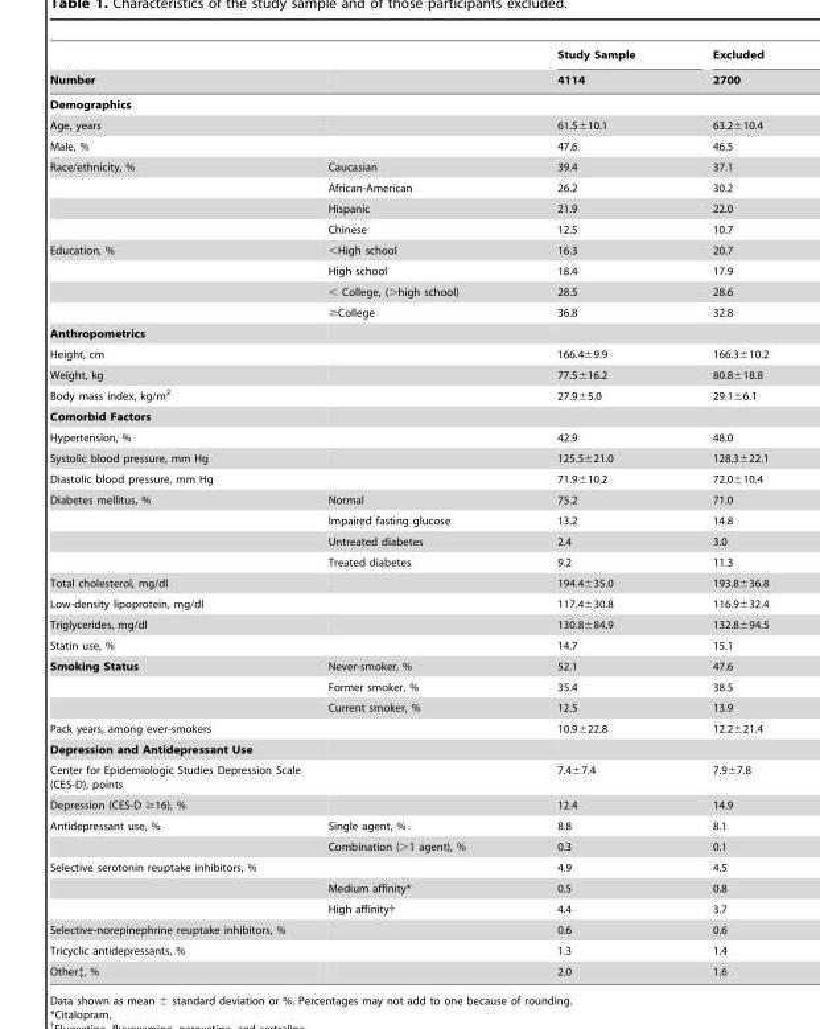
<table><thead><tr><td rowspan="2">Number</td><td rowspan="2"></td><td rowspan="2">Study Sample 4114</td><td rowspan="2">Excluded 2700</td></tr><tr></tr></thead><tbody><tr><td colspan="4">Demographics</td></tr><tr><td>Age, years</td><td></td><td>61.5±10.1</td><td>63.2±10.4</td></tr><tr><td>Male, %</td><td></td><td>47.6</td><td>46.5</td></tr><tr><td rowspan="4">Race/ethnicity, %</td><td>Caucasian</td><td>39.4</td><td>37.1</td></tr><tr><td>African-American</td><td>26.2</td><td>30.2</td></tr><tr><td>Hispanic</td><td>21.9</td><td>22.0</td></tr><tr><td>Chinese</td><td>12.5</td><td>10.7</td></tr><tr><td rowspan="4">Education, %</td><td>&lt;High school</td><td>16.3</td><td>20.7</td></tr><tr><td>High school</td><td>18.4</td><td>17.9</td></tr><tr><td>&lt; College, (&gt;high school)</td><td>28.5</td><td>28.6</td></tr><tr><td>≥College</td><td>36.8</td><td>32.8</td></tr><tr><td colspan="4">Anthropometrics</td></tr><tr><td>Height, cm</td><td></td><td>166.4±9.9</td><td>166.3±10.2</td></tr><tr><td>Weight, kg</td><td></td><td>77.5±16.2</td><td>80.8±18.8</td></tr><tr><td>Body mass index, kg/m<sup>2</sup></td><td></td><td>27.9±5.0</td><td>29.1±6.1</td></tr><tr><td colspan="4">Comorbid Factors</td></tr><tr><td>Hypertension, %</td><td></td><td>42.9</td><td>48.0</td></tr><tr><td>Systolic blood pressure, mm Hg</td><td></td><td>125.5±21.0</td><td>128.3±22.1</td></tr><tr><td>Diastolic blood pressure, mm Hg</td><td></td><td>71.9±10.2</td><td>72.0±10.4</td></tr><tr><td rowspan="4">Diabetes mellitus, %</td><td>Normal</td><td>75.2</td><td>71.0</td></tr><tr><td>Impaired fasting glucose</td><td>13.2</td><td>14.8</td></tr><tr><td>Untreated diabetes</td><td>2.4</td><td>3.0</td></tr><tr><td>Treated diabetes</td><td>9.2</td><td>11.3</td></tr><tr><td>Total cholesterol, mg/dl</td><td></td><td>194.4±35.0</td><td>193.8±36.8</td></tr><tr><td>Low-density lipoprotein, mg/dl</td><td></td><td>117.4±30.8</td><td>116.9±32.4</td></tr><tr><td>Triglycerides, mg/dl</td><td></td><td>130.8±84.9</td><td>132.8±94.5</td></tr><tr><td>Statin use, %</td><td></td><td>14.7</td><td>15.1</td></tr><tr><td rowspan="3">Smoking Status</td><td>Never-smoker, %</td><td>52.1</td><td>47.6</td></tr><tr><td>Former smoker, %</td><td>35.4</td><td>38.5</td></tr><tr><td>Current smoker, %</td><td>12.5</td><td>13.9</td></tr><tr><td>Pack years, among ever-smokers</td><td></td><td>10.9±22.8</td><td>12.2±21.4</td></tr><tr><td colspan="4">Depression and Antidepressant Use</td></tr><tr><td>Center for Epidemiologic Studies Depression Scale (CES-D), points</td><td></td><td>7.4±7.4</td><td>7.9±7.8</td></tr><tr><td>Depression (CES-D ≥16), %</td><td></td><td>12.4</td><td>14.9</td></tr><tr><td rowspan="2">Antidepressant use, %</td><td>Single agent, %</td><td>8.8</td><td>8.1</td></tr><tr><td>Combination (&gt;1 agent), %</td><td>0.3</td><td>0.1</td></tr><tr><td rowspan="3">Selective serotonin reuptake inhibitors, %</td><td></td><td>4.9</td><td>4.5</td></tr><tr><td>Medium affinity*</td><td>0.5</td><td>0.8</td></tr><tr><td>High affinity†</td><td>4.4</td><td>3.7</td></tr><tr><td>Selective-norepinephrine reuptake inhibitors, %</td><td></td><td>0.6</td><td>0.6</td></tr><tr><td>Tricyclic antidepressants, %</td><td></td><td>1.3</td><td>1.4</td></tr><tr><td>Other‡, %</td><td></td><td>2.0</td><td>1.6</td></tr></tbody></table>